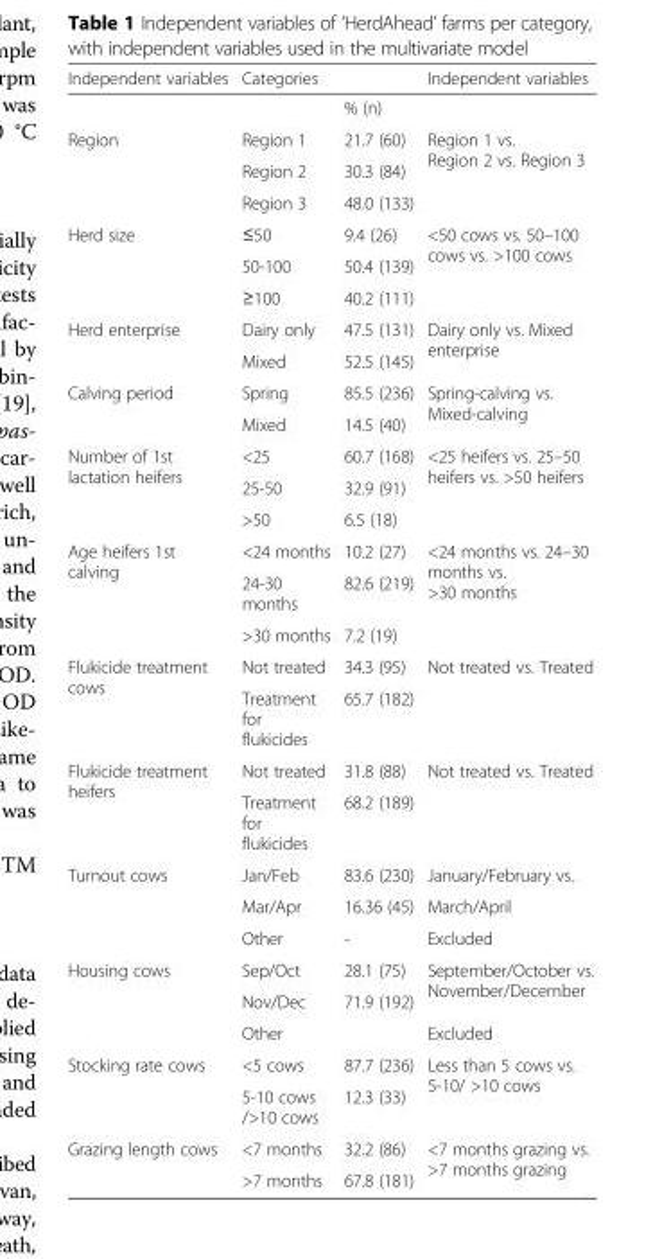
<table><thead><tr><td>Independent variables</td><td>Categories</td><td></td><td>Independent variables</td></tr></thead><tbody><tr><td></td><td></td><td>% (n)</td><td></td></tr><tr><td rowspan="3">Region</td><td>Region 1</td><td>21.7 (60)</td><td rowspan="3">Region 1 vs. Region 2 vs. Region 3</td></tr><tr><td>Region 2</td><td>30.3 (84)</td></tr><tr><td>Region 3</td><td>48.0 (133)</td></tr><tr><td rowspan="3">Herd size</td><td>≤50</td><td>9.4 (26)</td><td rowspan="3">&lt;50 cows vs. 50–100 cows vs. &gt;100 cows</td></tr><tr><td>50-100</td><td>50.4 (139)</td></tr><tr><td>≥100</td><td>40.2 (111)</td></tr><tr><td rowspan="2">Herd enterprise</td><td>Dairy only</td><td>47.5 (131)</td><td rowspan="2">Dairy only vs. Mixed enterprise</td></tr><tr><td>Mixed</td><td>52.5 (145)</td></tr><tr><td rowspan="2">Calving period</td><td>Spring</td><td>85.5 (236)</td><td rowspan="2">Spring-calving vs. Mixed-calving</td></tr><tr><td>Mixed</td><td>14.5 (40)</td></tr><tr><td rowspan="3">Number of 1st lactation heifers</td><td>&lt;25</td><td>60.7 (168)</td><td rowspan="3">&lt;25 heifers vs. 25–50 heifers vs. &gt;50 heifers</td></tr><tr><td>25-50</td><td>32.9 (91)</td></tr><tr><td>&gt;50</td><td>6.5 (18)</td></tr><tr><td rowspan="3">Age heifers 1st calving</td><td>&lt;24 months</td><td>10.2 (27)</td><td rowspan="3">&lt;24 months vs. 24–30 months vs. &gt;30 months</td></tr><tr><td>24-30 months</td><td>82.6 (219)</td></tr><tr><td>&gt;30 months</td><td>7.2 (19)</td></tr><tr><td rowspan="2">Flukicide treatment cows</td><td>Not treated</td><td>34.3 (95)</td><td rowspan="2">Not treated vs. Treated</td></tr><tr><td>Treatment for flukicides</td><td>65.7 (182)</td></tr><tr><td rowspan="2">Flukicide treatment heifers</td><td>Not treated</td><td>31.8 (88)</td><td rowspan="2">Not treated vs. Treated</td></tr><tr><td>Treatment for flukicides</td><td>68.2 (189)</td></tr><tr><td rowspan="3">Turnout cows</td><td>Jan/Feb</td><td>83.6 (230)</td><td>January/February vs.</td></tr><tr><td>Mar/Apr</td><td>16.36 (45)</td><td>March/April</td></tr><tr><td>Other</td><td>-</td><td>Excluded</td></tr><tr><td rowspan="3">Housing cows</td><td>Sep/Oct</td><td>28.1 (75)</td><td rowspan="2">September/October vs. November/December</td></tr><tr><td>Nov/Dec</td><td rowspan="2">71.9 (192)</td></tr><tr><td>Other</td><td>Excluded</td></tr><tr><td rowspan="2">Stocking rate cows</td><td>&lt;5 cows</td><td>87.7 (236)</td><td rowspan="2">Less than 5 cows vs. 5-10/ &gt;10 cows</td></tr><tr><td>5-10 cows /&gt;10 cows</td><td>12.3 (33)</td></tr><tr><td rowspan="2">Grazing length cows</td><td>&lt;7 months</td><td>32.2 (86)</td><td rowspan="2">&lt;7 months grazing vs. &gt;7 months grazing</td></tr><tr><td>&gt;7 months</td><td>67.8 (181)</td></tr></tbody></table>